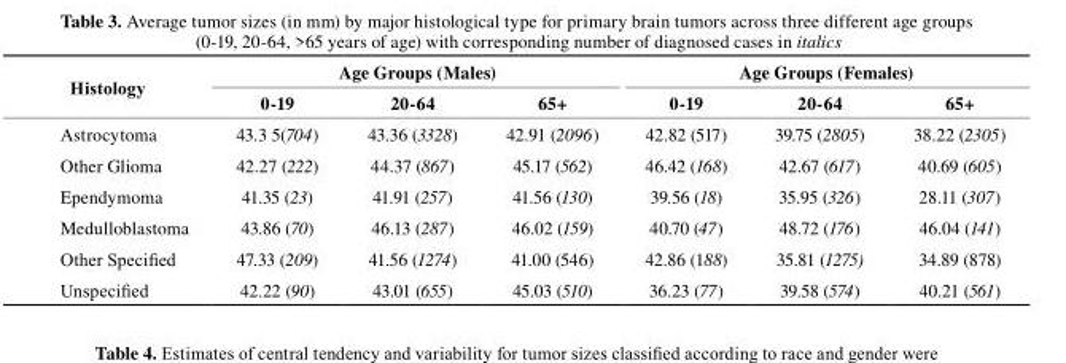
<table><thead><tr><td rowspan="2">Histology</td><td colspan="3">Age Groups (Males)</td><td colspan="3">Age Groups (Females)</td></tr><tr><td>0-19</td><td>20-64</td><td>65+</td><td>0-19</td><td>20-64</td><td>65+</td></tr></thead><tbody><tr><td>Astrocytoma</td><td>43.3 5(704)</td><td>43.36 (3328)</td><td>42.91 (2096)</td><td>42.82 (517)</td><td>39.75 (2805)</td><td>38.22 (2305)</td></tr><tr><td>Other Glioma</td><td>42.27 (222)</td><td>44.37 (867)</td><td>45.17 (562)</td><td>46.42 (168)</td><td>42.67 (617)</td><td>40.69 (605)</td></tr><tr><td>Ependymoma</td><td>41.35 (23)</td><td>41.91 (257)</td><td>41.56 (130)</td><td>39.56 (18)</td><td>35.95 (326)</td><td>28.11 (307)</td></tr><tr><td>Medulloblastoma</td><td>43.86 (70)</td><td>46.13 (287)</td><td>46.02 (159)</td><td>40.70 (47)</td><td>48.72 (176)</td><td>46.04 (141)</td></tr><tr><td>Other Specified</td><td>47.33 (209)</td><td>41.56 (1274)</td><td>41.00 (546)</td><td>42.86 (188)</td><td>35.81 (1275)</td><td>34.89 (878)</td></tr><tr><td>Unspecified</td><td>42.22 (90)</td><td>43.01 (655)</td><td>45.03 (510)</td><td>36.23 (77)</td><td>39.58 (574)</td><td>40.21 (561)</td></tr></tbody></table>